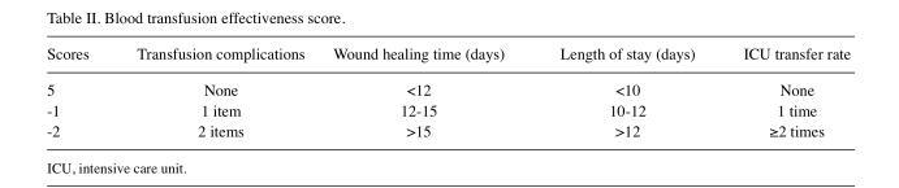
<table><thead><tr><td>Scores</td><td>Transfusion complications</td><td>Wound healing time (days)</td><td>Length of stay (days)</td><td>ICU transfer rate</td></tr></thead><tbody><tr><td>5</td><td>None</td><td>&lt;12</td><td>&lt;10</td><td>None</td></tr><tr><td>-1</td><td>1 item</td><td>12-15</td><td>10-12</td><td>1 time</td></tr><tr><td>-2</td><td>2 items</td><td>&gt;15</td><td>&gt;12</td><td>≥2 times</td></tr></tbody></table>